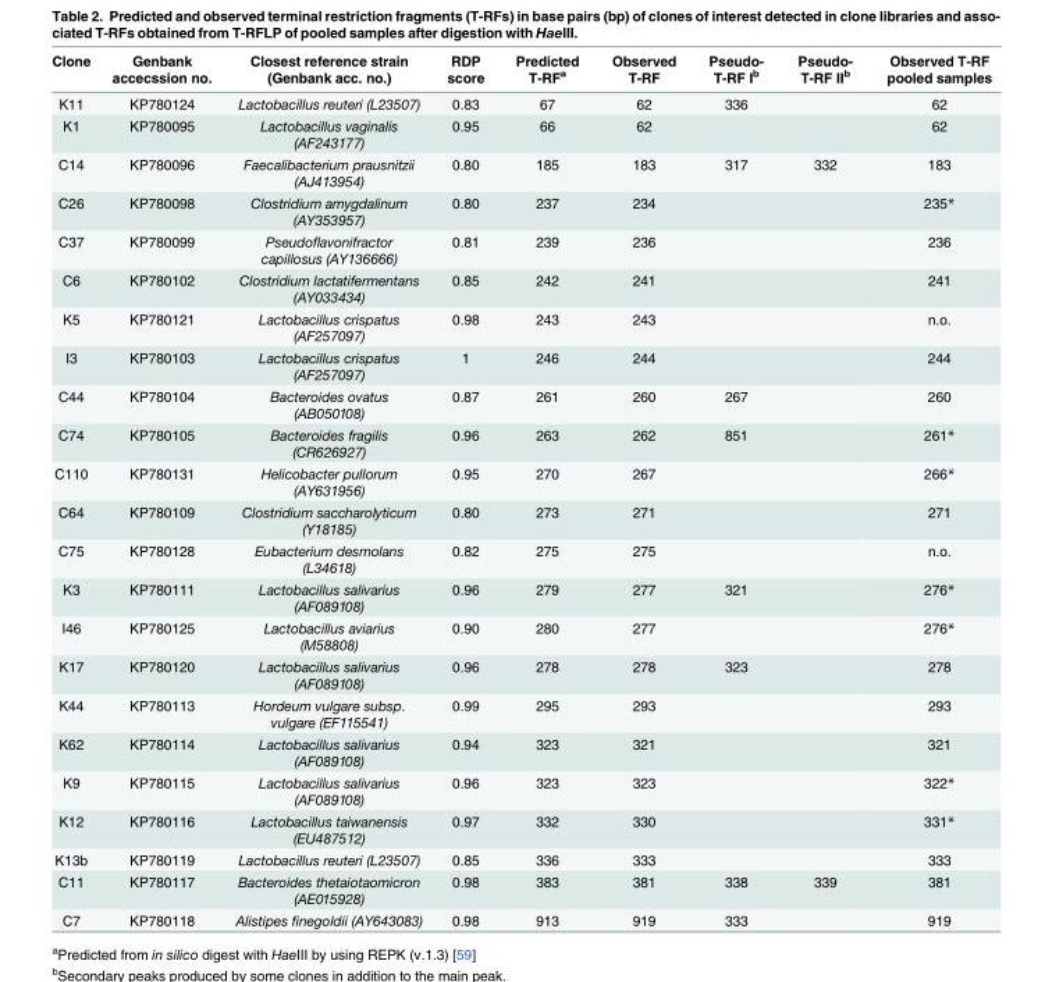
<table><thead><tr><td>Clone</td><td>Genbank accecssion no.</td><td>Closest reference strain (Genbank acc. no.)</td><td>RDP score</td><td>Predicted T-RF<sup>a</sup></td><td>Observed T-RF</td><td>Pseudo- T-RF I<sup>b</sup></td><td>Pseudo- T-RF II<sup>b</sup></td><td>Observed T-RF pooled samples</td></tr></thead><tbody><tr><td>K11</td><td>KP780124</td><td>Lactobacillus reuteri (L23507)</td><td>0.83</td><td>67</td><td>62</td><td>336</td><td></td><td>62</td></tr><tr><td>K1</td><td>KP780095</td><td>Lactobacillus vaginalis (AF243177)</td><td>0.95</td><td>66</td><td>62</td><td></td><td></td><td>62</td></tr><tr><td>C14</td><td>KP780096</td><td>Faecalibacterium prausnitzii (AJ413954)</td><td>0.80</td><td>185</td><td>183</td><td>317</td><td>332</td><td>183</td></tr><tr><td>C26</td><td>KP780098</td><td>Clostridium amygdalinum (AY353957)</td><td>0.80</td><td>237</td><td>234</td><td></td><td></td><td>235*</td></tr><tr><td>C37</td><td>KP780099</td><td>Pseudoflavonifractor capillosus (AY136666)</td><td>0.81</td><td>239</td><td>236</td><td></td><td></td><td>236</td></tr><tr><td>C6</td><td>KP780102</td><td>Clostridium lactatifermentans (AY033434)</td><td>0.85</td><td>242</td><td>241</td><td></td><td></td><td>241</td></tr><tr><td>K5</td><td>KP780121</td><td>Lactobacillus crispatus (AF257097)</td><td>0.98</td><td>243</td><td>243</td><td></td><td></td><td>n.o.</td></tr><tr><td>I3</td><td>KP780103</td><td>Lactobacillus crispatus (AF257097)</td><td>1</td><td>246</td><td>244</td><td></td><td></td><td>244</td></tr><tr><td>C44</td><td>KP780104</td><td>Bacteroides ovatus (AB050108)</td><td>0.87</td><td>261</td><td>260</td><td>267</td><td></td><td>260</td></tr><tr><td>C74</td><td>KP780105</td><td>Bacteroides fragilis (CR626927)</td><td>0.96</td><td>263</td><td>262</td><td>851</td><td></td><td>261*</td></tr><tr><td>C110</td><td>KP780131</td><td>Helicobacter pullorum (AY631956)</td><td>0.95</td><td>270</td><td>267</td><td></td><td></td><td>266*</td></tr><tr><td>C64</td><td>KP780109</td><td>Clostridium saccharolyticum (Y18185)</td><td>0.80</td><td>273</td><td>271</td><td></td><td></td><td>271</td></tr><tr><td>C75</td><td>KP780128</td><td>Eubacterium desmolans (L34618)</td><td>0.82</td><td>275</td><td>275</td><td></td><td></td><td>n.o.</td></tr><tr><td>K3</td><td>KP780111</td><td>Lactobacillus salivarius (AF089108)</td><td>0.96</td><td>279</td><td>277</td><td>321</td><td></td><td>276*</td></tr><tr><td>I46</td><td>KP780125</td><td>Lactobacillus aviarius (M58808)</td><td>0.90</td><td>280</td><td>277</td><td></td><td></td><td>276*</td></tr><tr><td>K17</td><td>KP780120</td><td>Lactobacillus salivarius (AF089108)</td><td>0.96</td><td>278</td><td>278</td><td>323</td><td></td><td>278</td></tr><tr><td>K44</td><td>KP780113</td><td>Hordeum vulgare subsp. vulgare (EF115541)</td><td>0.99</td><td>295</td><td>293</td><td></td><td></td><td>293</td></tr><tr><td>K62</td><td>KP780114</td><td>Lactobacillus salivarius (AF089108)</td><td>0.94</td><td>323</td><td>321</td><td></td><td></td><td>321</td></tr><tr><td>K9</td><td>KP780115</td><td>Lactobacillus salivarius (AF089108)</td><td>0.96</td><td>323</td><td>323</td><td></td><td></td><td>322*</td></tr><tr><td>K12</td><td>KP780116</td><td>Lactobacillus taiwanensis (EU487512)</td><td>0.97</td><td>332</td><td>330</td><td></td><td></td><td>331*</td></tr><tr><td>K13b</td><td>KP780119</td><td>Lactobacillus reuteri (L23507)</td><td>0.85</td><td>336</td><td>333</td><td></td><td></td><td>333</td></tr><tr><td>C11</td><td>KP780117</td><td>Bacteroides thetaiotaomicron (AE015928)</td><td>0.98</td><td>383</td><td>381</td><td>338</td><td>339</td><td>381</td></tr><tr><td>C7</td><td>KP780118</td><td>Alistipes finegoldii (AY643083)</td><td>0.98</td><td>913</td><td>919</td><td>333</td><td></td><td>919</td></tr></tbody></table>